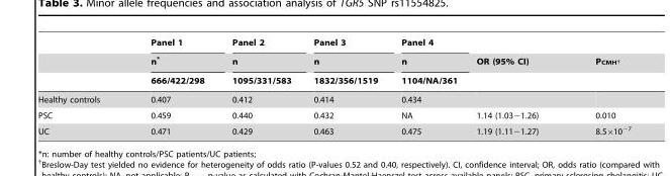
<table><thead><tr><td rowspan="3"></td><td rowspan="3">Panel 1 n* 666/422/298</td><td rowspan="3">Panel 2 n 1095/331/583</td><td rowspan="3">Panel 3 n 1832/356/1519</td><td rowspan="3">Panel 4 n 1104/NA/361</td><td rowspan="3">OR (95% CI)</td><td rowspan="3">P<sub>CMH</sub>†</td></tr><tr></tr><tr></tr></thead><tbody><tr><td>Healthy controls</td><td>0.407</td><td>0.412</td><td>0.414</td><td>0.434</td><td></td><td></td></tr><tr><td>PSC</td><td>0.459</td><td>0.440</td><td>0.432</td><td>NA</td><td>1.14 (1.03−1.26)</td><td>0.010</td></tr><tr><td>UC</td><td>0.471</td><td>0.429</td><td>0.463</td><td>0.475</td><td>1.19 (1.11−1.27)</td><td>8.5×10<sup>−7</sup></td></tr></tbody></table>